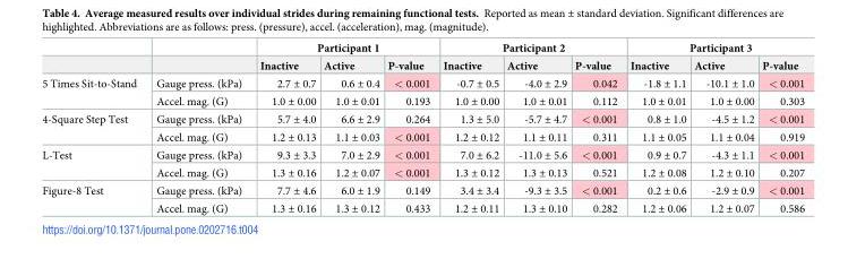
<table><thead><tr><td rowspan="2"></td><td rowspan="2"></td><td colspan="3">Participant 1</td><td colspan="3">Participant 2</td><td colspan="3">Participant 3</td></tr><tr><td>Inactive</td><td>Active</td><td>P-value</td><td>Inactive</td><td>Active</td><td>P-value</td><td>Inactive</td><td>Active</td><td>P-value</td></tr></thead><tbody><tr><td rowspan="2">5 Times Sit-to-Stand</td><td>Gauge press. (kPa)</td><td>2.7 ± 0.7</td><td>0.6 ± 0.4</td><td>&lt; 0.001</td><td>-0.7 ± 0.5</td><td>-4.0 ± 2.9</td><td>0.042</td><td>-1.8 ± 1.1</td><td>-10.1 ± 1.0</td><td>&lt; 0.001</td></tr><tr><td>Accel. mag. (G)</td><td>1.0 ± 0.00</td><td>1.0 ± 0.01</td><td>0.193</td><td>1.0 ± 0.00</td><td>1.0 ± 0.01</td><td>0.112</td><td>1.0 ± 0.01</td><td>1.0 ± 0.00</td><td>0.303</td></tr><tr><td rowspan="2">4-Square Step Test</td><td>Gauge press. (kPa)</td><td>5.7 ± 4.0</td><td>6.6 ± 2.9</td><td>0.264</td><td>1.3 ± 5.0</td><td>-5.7 ± 4.7</td><td>&lt; 0.001</td><td>0.8 ± 1.0</td><td>-4.5 ± 1.2</td><td>&lt; 0.001</td></tr><tr><td>Accel. mag. (G)</td><td>1.2 ± 0.13</td><td>1.1 ± 0.03</td><td>&lt; 0.001</td><td>1.2 ± 0.12</td><td>1.1 ± 0.11</td><td>0.311</td><td>1.1 ± 0.05</td><td>1.1 ± 0.04</td><td>0.919</td></tr><tr><td rowspan="2">L-Test</td><td>Gauge press. (kPa)</td><td>9.3 ± 3.3</td><td>7.0 ± 2.9</td><td>&lt; 0.001</td><td>7.0 ± 6.2</td><td>-11.0 ± 5.6</td><td>&lt; 0.001</td><td>0.9 ± 0.7</td><td>-4.3 ± 1.1</td><td>&lt; 0.001</td></tr><tr><td>Accel. mag. (G)</td><td>1.3 ± 0.16</td><td>1.2 ± 0.07</td><td>&lt; 0.001</td><td>1.3 ± 0.12</td><td>1.3 ± 0.13</td><td>0.521</td><td>1.2 ± 0.08</td><td>1.2 ± 0.10</td><td>0.207</td></tr><tr><td rowspan="2">Figure-8 Test</td><td>Gauge press. (kPa)</td><td>7.7 ± 4.6</td><td>6.0 ± 1.9</td><td>0.149</td><td>3.4 ± 3.4</td><td>-9.3 ± 3.5</td><td>&lt; 0.001</td><td>0.2 ± 0.6</td><td>-2.9 ± 0.9</td><td>&lt; 0.001</td></tr><tr><td>Accel. mag. (G)</td><td>1.3 ± 0.16</td><td>1.3 ± 0.12</td><td>0.433</td><td>1.2 ± 0.11</td><td>1.3 ± 0.10</td><td>0.282</td><td>1.2 ± 0.06</td><td>1.2 ± 0.07</td><td>0.586</td></tr></tbody></table>